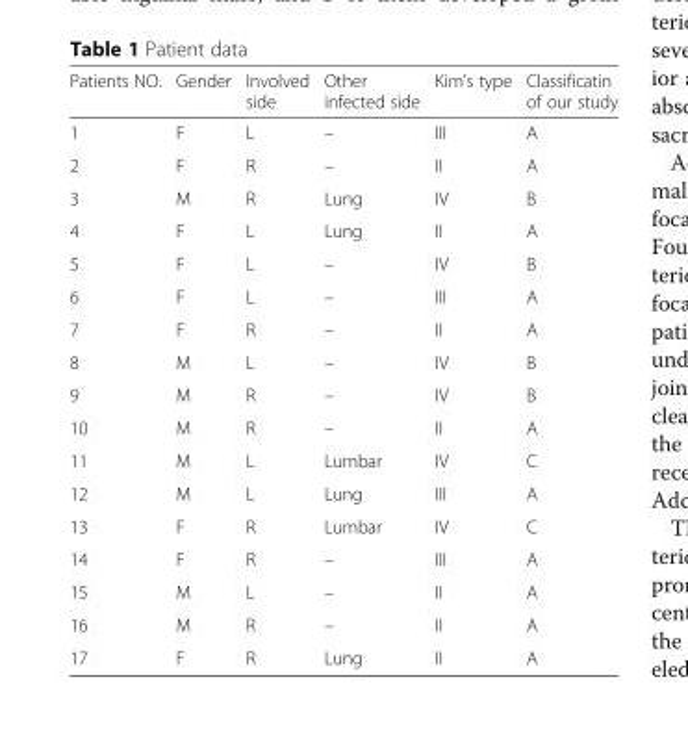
<table><thead><tr><td>Patients NO.</td><td>Gender</td><td>Involved side</td><td>Other infected side</td><td>Kim’s type</td><td>Classificatin of our study</td></tr></thead><tbody><tr><td>1</td><td>F</td><td>L</td><td>–</td><td>III</td><td>A</td></tr><tr><td>2</td><td>F</td><td>R</td><td>–</td><td>II</td><td>A</td></tr><tr><td>3</td><td>M</td><td>R</td><td>Lung</td><td>IV</td><td>B</td></tr><tr><td>4</td><td>F</td><td>L</td><td>Lung</td><td>II</td><td>A</td></tr><tr><td>5</td><td>F</td><td>L</td><td>–</td><td>IV</td><td>B</td></tr><tr><td>6</td><td>F</td><td>L</td><td>–</td><td>III</td><td>A</td></tr><tr><td>7</td><td>F</td><td>R</td><td>–</td><td>II</td><td>A</td></tr><tr><td>8</td><td>M</td><td>L</td><td>–</td><td>IV</td><td>B</td></tr><tr><td>9</td><td>M</td><td>R</td><td>–</td><td>IV</td><td>B</td></tr><tr><td>10</td><td>M</td><td>R</td><td>–</td><td>II</td><td>A</td></tr><tr><td>11</td><td>M</td><td>L</td><td>Lumbar</td><td>IV</td><td>C</td></tr><tr><td>12</td><td>M</td><td>L</td><td>Lung</td><td>III</td><td>A</td></tr><tr><td>13</td><td>F</td><td>R</td><td>Lumbar</td><td>IV</td><td>C</td></tr><tr><td>14</td><td>F</td><td>R</td><td>–</td><td>III</td><td>A</td></tr><tr><td>15</td><td>M</td><td>L</td><td>–</td><td>II</td><td>A</td></tr><tr><td>16</td><td>M</td><td>R</td><td>–</td><td>II</td><td>A</td></tr><tr><td>17</td><td>F</td><td>R</td><td>Lung</td><td>II</td><td>A</td></tr></tbody></table>